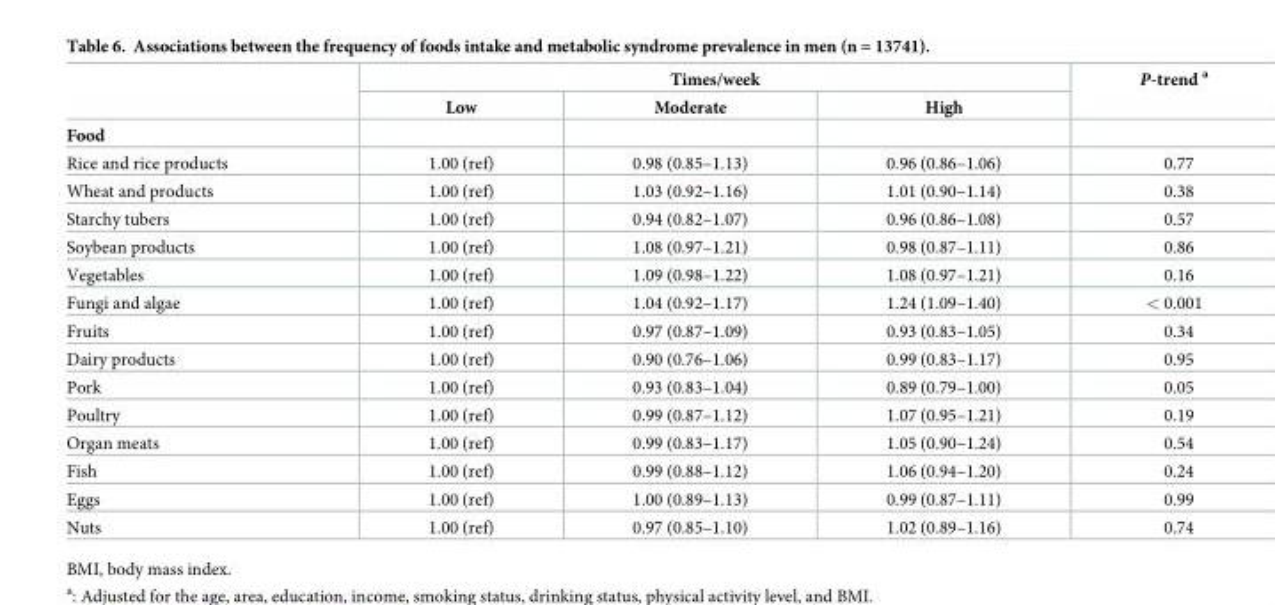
<table><thead><tr><td rowspan="3">Food</td><td colspan="3">Times/week</td><td rowspan="3">P-trend <sup>a</sup></td></tr><tr><td rowspan="2">Low</td><td rowspan="2">Moderate</td><td rowspan="2">High</td></tr><tr></tr></thead><tbody><tr><td>Rice and rice products</td><td>1.00 (ref)</td><td>0.98 (0.85–1.13)</td><td>0.96 (0.86–1.06)</td><td>0.77</td></tr><tr><td>Wheat and products</td><td>1.00 (ref)</td><td>1.03 (0.92–1.16)</td><td>1.01 (0.90–1.14)</td><td>0.38</td></tr><tr><td>Starchy tubers</td><td>1.00 (ref)</td><td>0.94 (0.82–1.07)</td><td>0.96 (0.86–1.08)</td><td>0.57</td></tr><tr><td>Soybean products</td><td>1.00 (ref)</td><td>1.08 (0.97–1.21)</td><td>0.98 (0.87–1.11)</td><td>0.86</td></tr><tr><td>Vegetables</td><td>1.00 (ref)</td><td>1.09 (0.98–1.22)</td><td>1.08 (0.97–1.21)</td><td>0.16</td></tr><tr><td>Fungi and algae</td><td>1.00 (ref)</td><td>1.04 (0.92–1.17)</td><td>1.24 (1.09–1.40)</td><td>&lt; 0.001</td></tr><tr><td>Fruits</td><td>1.00 (ref)</td><td>0.97 (0.87–1.09)</td><td>0.93 (0.83–1.05)</td><td>0.34</td></tr><tr><td>Dairy products</td><td>1.00 (ref)</td><td>0.90 (0.76–1.06)</td><td>0.99 (0.83–1.17)</td><td>0.95</td></tr><tr><td>Pork</td><td>1.00 (ref)</td><td>0.93 (0.83–1.04)</td><td>0.89 (0.79–1.00)</td><td>0.05</td></tr><tr><td>Poultry</td><td>1.00 (ref)</td><td>0.99 (0.87–1.12)</td><td>1.07 (0.95–1.21)</td><td>0.19</td></tr><tr><td>Organ meats</td><td>1.00 (ref)</td><td>0.99 (0.83–1.17)</td><td>1.05 (0.90–1.24)</td><td>0.54</td></tr><tr><td>Fish</td><td>1.00 (ref)</td><td>0.99 (0.88–1.12)</td><td>1.06 (0.94–1.20)</td><td>0.24</td></tr><tr><td>Eggs</td><td>1.00 (ref)</td><td>1.00 (0.89–1.13)</td><td>0.99 (0.87–1.11)</td><td>0.99</td></tr><tr><td>Nuts</td><td>1.00 (ref)</td><td>0.97 (0.85–1.10)</td><td>1.02 (0.89–1.16)</td><td>0.74</td></tr></tbody></table>